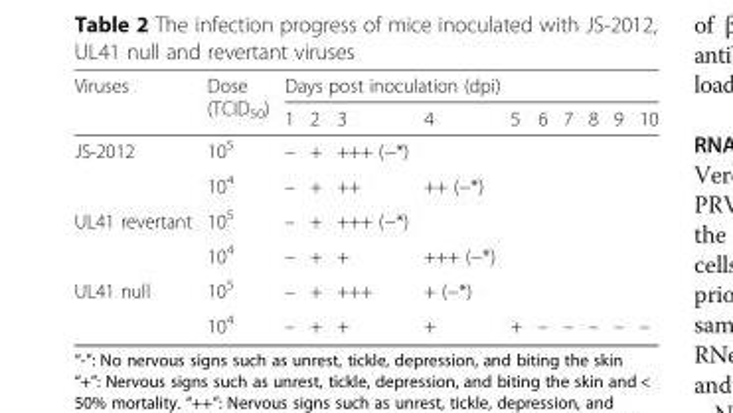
<table><thead><tr><td rowspan="2">Viruses</td><td rowspan="2">Dose (TCID<sub>50</sub>)</td><td colspan="10">Days post inoculation (dpi)</td></tr><tr><td>1</td><td>2</td><td>3</td><td>4</td><td>5</td><td>6</td><td>7</td><td>8</td><td>9</td><td>10</td></tr></thead><tbody><tr><td rowspan="2">JS-2012</td><td>10<sup>5</sup></td><td>–</td><td>+</td><td>+++ (−*)</td><td></td><td></td><td></td><td></td><td></td><td></td><td></td></tr><tr><td>10<sup>4</sup></td><td>–</td><td>+</td><td>++</td><td>++ (−*)</td><td></td><td></td><td></td><td></td><td></td><td></td></tr><tr><td rowspan="2">UL41 revertant</td><td>10<sup>5</sup></td><td>–</td><td>+</td><td>+++ (−*)</td><td></td><td></td><td></td><td></td><td></td><td></td><td></td></tr><tr><td>10<sup>4</sup></td><td>–</td><td>+</td><td>+</td><td>+++ (−*)</td><td></td><td></td><td></td><td></td><td></td><td></td></tr><tr><td rowspan="2">UL41 null</td><td>10<sup>5</sup></td><td>–</td><td>+</td><td>+++</td><td>+ (−*)</td><td></td><td></td><td></td><td></td><td></td><td></td></tr><tr><td>10<sup>4</sup></td><td>–</td><td>+</td><td>+</td><td>+</td><td>+</td><td>–</td><td>–</td><td>–</td><td>–</td><td>–</td></tr></tbody></table>